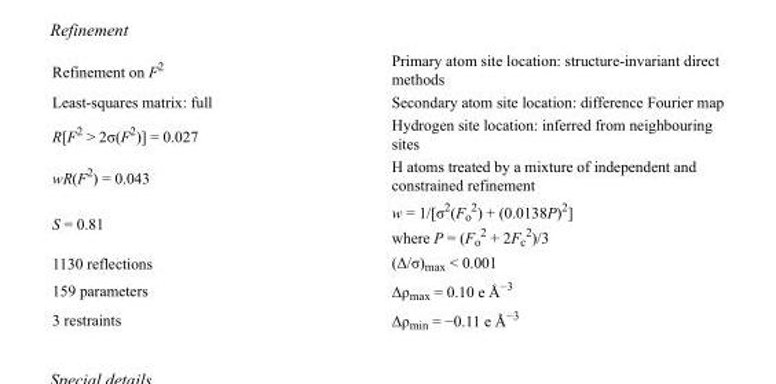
<table><tbody><tr><td>Refinement on F<sup>2</sup></td><td>Primary atom site location: structure-invariant direct methods</td></tr><tr><td>Least-squares matrix: full</td><td>Secondary atom site location: difference Fourier map</td></tr><tr><td>R[F<sup>2</sup> &gt; 2σ(F<sup>2</sup>)] = 0.027</td><td>Hydrogen site location: inferred from neighbouring sites</td></tr><tr><td>wR(F<sup>2</sup>) = 0.043</td><td>H atoms treated by a mixture of independent and constrained refinement</td></tr><tr><td>S = 0.81</td><td>w = 1/[σ<sup>2</sup>(F<sub>o</sub> <sup>2</sup>) + (0.0138P)<sup>2</sup>] where P = (F<sub>o</sub> <sup>2</sup> + 2F<sub>c</sub> <sup>2</sup>)/3</td></tr><tr><td>1130 reflections</td><td>(Δ/σ)<sub>max</sub> &lt; 0.001</td></tr><tr><td>159 parameters</td><td>Δρ<sub>max</sub> = 0.10 e Å<sup>−3</sup></td></tr><tr><td>3 restraints</td><td>Δρ<sub>min</sub> = −0.11 e Å<sup>−3</sup></td></tr></tbody></table>